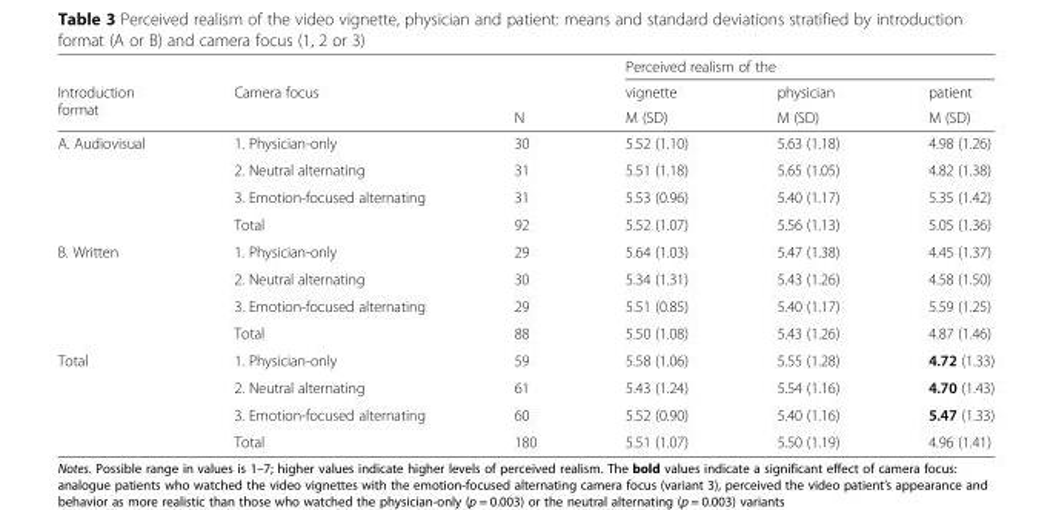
<table><thead><tr><td rowspan="3">Introduction format</td><td rowspan="3">Camera focus</td><td rowspan="3">N</td><td colspan="3">Perceived realism of the</td></tr><tr><td rowspan="2">vignette M (SD)</td><td rowspan="2">physician M (SD)</td><td rowspan="2">patient M (SD)</td></tr><tr></tr></thead><tbody><tr><td rowspan="4">A. Audiovisual</td><td>1. Physician-only</td><td>30</td><td>5.52 (1.10)</td><td>5.63 (1.18)</td><td>4.98 (1.26)</td></tr><tr><td>2. Neutral alternating</td><td>31</td><td>5.51 (1.18)</td><td>5.65 (1.05)</td><td>4.82 (1.38)</td></tr><tr><td>3. Emotion-focused alternating</td><td>31</td><td>5.53 (0.96)</td><td>5.40 (1.17)</td><td>5.35 (1.42)</td></tr><tr><td>Total</td><td>92</td><td>5.52 (1.07)</td><td>5.56 (1.13)</td><td>5.05 (1.36)</td></tr><tr><td rowspan="4">B. Written</td><td>1. Physician-only</td><td>29</td><td>5.64 (1.03)</td><td>5.47 (1.38)</td><td>4.45 (1.37)</td></tr><tr><td>2. Neutral alternating</td><td>30</td><td>5.34 (1.31)</td><td>5.43 (1.26)</td><td>4.58 (1.50)</td></tr><tr><td>3. Emotion-focused alternating</td><td>29</td><td>5.51 (0.85)</td><td>5.40 (1.17)</td><td>5.59 (1.25)</td></tr><tr><td>Total</td><td>88</td><td>5.50 (1.08)</td><td>5.43 (1.26)</td><td>4.87 (1.46)</td></tr><tr><td rowspan="4">Total</td><td>1. Physician-only</td><td>59</td><td>5.58 (1.06)</td><td>5.55 (1.28)</td><td>4.72 (1.33)</td></tr><tr><td>2. Neutral alternating</td><td>61</td><td>5.43 (1.24)</td><td>5.54 (1.16)</td><td>4.70 (1.43)</td></tr><tr><td>3. Emotion-focused alternating</td><td>60</td><td>5.52 (0.90)</td><td>5.40 (1.16)</td><td>5.47 (1.33)</td></tr><tr><td>Total</td><td>180</td><td>5.51 (1.07)</td><td>5.50 (1.19)</td><td>4.96 (1.41)</td></tr></tbody></table>